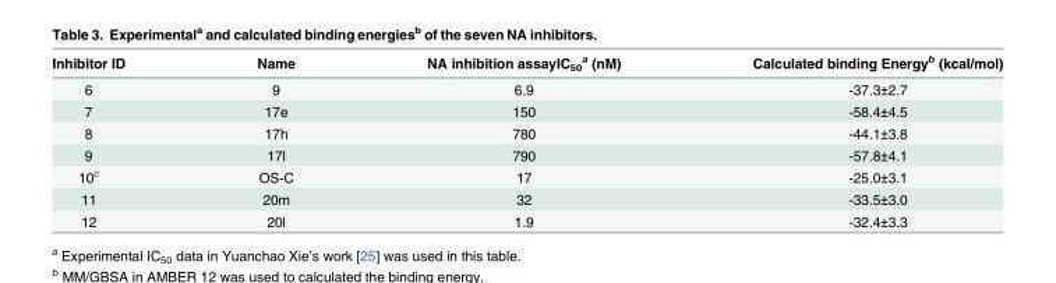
<table><thead><tr><td>Inhibitor ID</td><td>Name</td><td>NA inhibition assayIC<sub>50</sub> <sup>a</sup> (nM)</td><td>Calculated binding Energy<sup>b</sup> (kcal/mol)</td></tr></thead><tbody><tr><td>6</td><td>9</td><td>6.9</td><td>-37.3±2.7</td></tr><tr><td>7</td><td>17e</td><td>150</td><td>-58.4±4.5</td></tr><tr><td>8</td><td>17h</td><td>780</td><td>-44.1±3.8</td></tr><tr><td>9</td><td>17l</td><td>790</td><td>-57.8±4.1</td></tr><tr><td>10<sup>c</sup></td><td>OS-C</td><td>17</td><td>-25.0±3.1</td></tr><tr><td>11</td><td>20m</td><td>32</td><td>-33.5±3.0</td></tr><tr><td>12</td><td>20l</td><td>1.9</td><td>-32.4±3.3</td></tr></tbody></table>